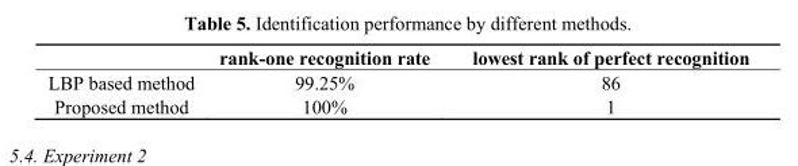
<table><thead><tr><td></td><td>rank-one recognition rate</td><td>lowest rank of perfect recognition</td></tr></thead><tbody><tr><td>LBP based method</td><td>99.25%</td><td>86</td></tr><tr><td>Proposed method</td><td>100%</td><td>1</td></tr></tbody></table>